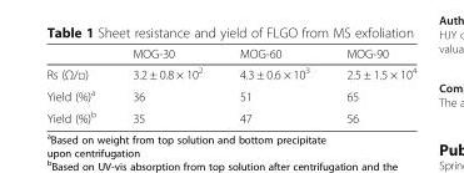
<table><thead><tr><td></td><td>MOG-30</td><td>MOG-60</td><td>MOG-90</td></tr></thead><tbody><tr><td>Rs (Ω/□)</td><td>3.2 ± 0.8 × 10<sup>2</sup></td><td>4.3 ± 0.6 × 10<sup>3</sup></td><td>2.5 ± 1.5 × 10<sup>4</sup></td></tr><tr><td>Yield (%)<sup>a</sup></td><td>36</td><td>51</td><td>65</td></tr><tr><td>Yield (%)<sup>b</sup></td><td>35</td><td>47</td><td>56</td></tr></tbody></table>